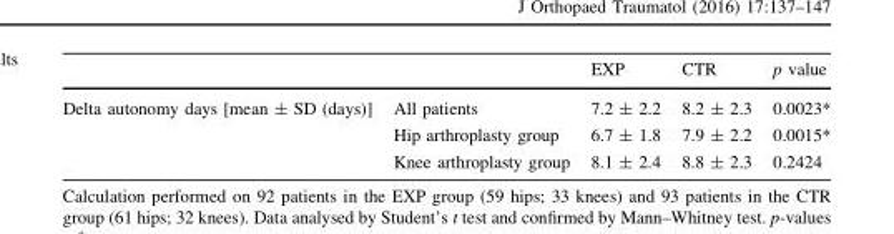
<table><thead><tr><td></td><td></td><td>EXP</td><td>CTR</td><td>p value</td></tr></thead><tbody><tr><td rowspan="3">Delta autonomy days [mean ± SD (days)]</td><td>All patients</td><td>7.2 ± 2.2</td><td>8.2 ± 2.3</td><td>0.0023*</td></tr><tr><td>Hip arthroplasty group</td><td>6.7 ± 1.8</td><td>7.9 ± 2.2</td><td>0.0015*</td></tr><tr><td>Knee arthroplasty group</td><td>8.1 ± 2.4</td><td>8.8 ± 2.3</td><td>0.2424</td></tr></tbody></table>